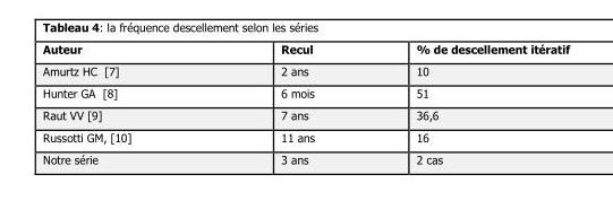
<table><thead><tr><td>Auteur</td><td>Recul</td><td>% de descellement itératif</td></tr></thead><tbody><tr><td>Amurtz HC [7]</td><td>2 ans</td><td>10</td></tr><tr><td>Hunter GA [8]</td><td>6 mois</td><td>51</td></tr><tr><td>Raut VV [9]</td><td>7 ans</td><td>36,6</td></tr><tr><td>Russotti GM, [10]</td><td>11 ans</td><td>16</td></tr><tr><td>Notre série</td><td>3 ans</td><td>2 cas</td></tr></tbody></table>